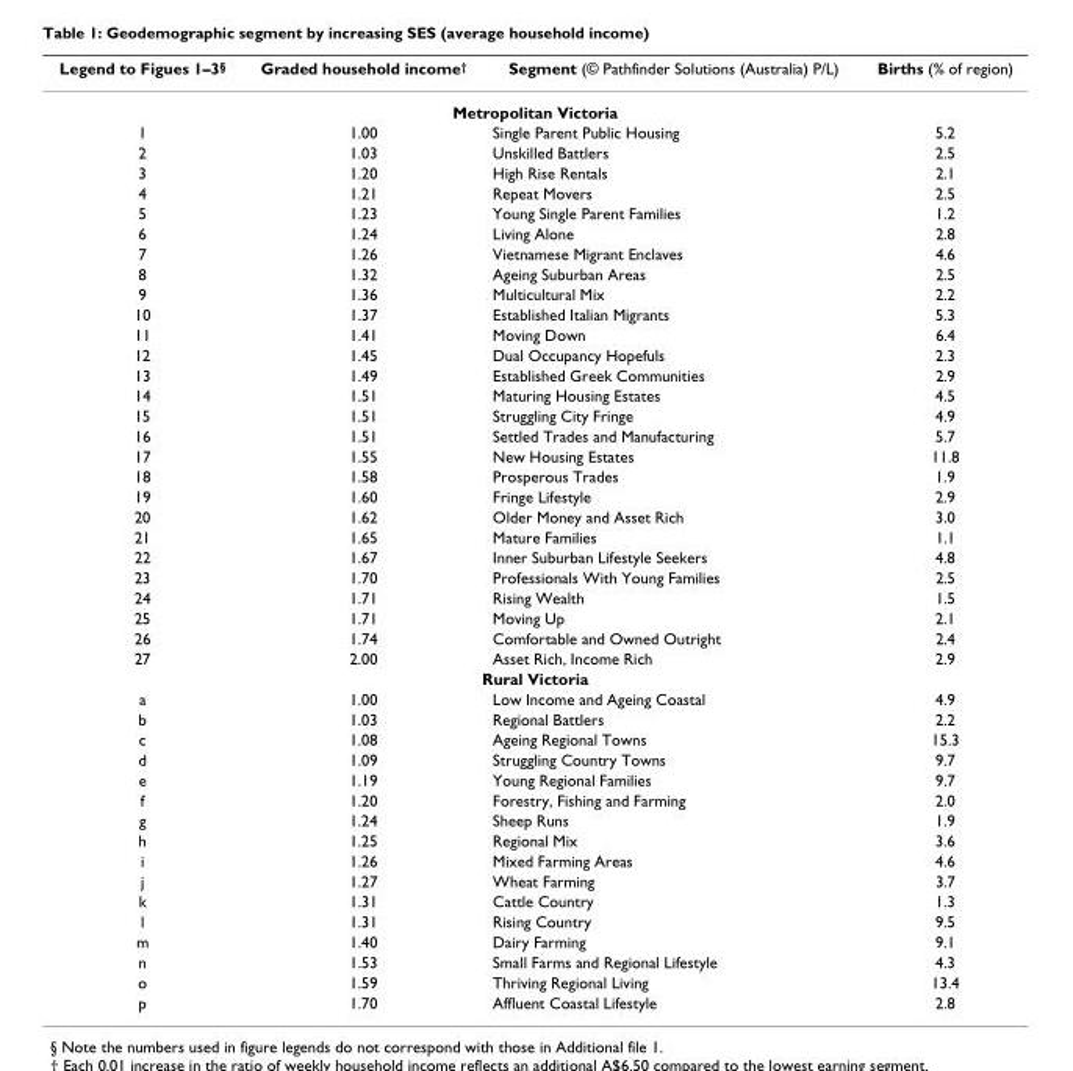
<table><thead><tr><td>Legend to Figues 1–3<sup>§</sup></td><td>Graded household income<sup>†</sup></td><td>Segment (© Pathfinder Solutions (Australia) P/L)</td><td>Births (% of region)</td></tr></thead><tbody><tr><td colspan="4">Metropolitan Victoria</td></tr><tr><td>1</td><td>1.00</td><td>Single Parent Public Housing</td><td>5.2</td></tr><tr><td>2</td><td>1.03</td><td>Unskilled Battlers</td><td>2.5</td></tr><tr><td>3</td><td>1.20</td><td>High Rise Rentals</td><td>2.1</td></tr><tr><td>4</td><td>1.21</td><td>Repeat Movers</td><td>2.5</td></tr><tr><td>5</td><td>1.23</td><td>Young Single Parent Families</td><td>1.2</td></tr><tr><td>6</td><td>1.24</td><td>Living Alone</td><td>2.8</td></tr><tr><td>7</td><td>1.26</td><td>Vietnamese Migrant Enclaves</td><td>4.6</td></tr><tr><td>8</td><td>1.32</td><td>Ageing Suburban Areas</td><td>2.5</td></tr><tr><td>9</td><td>1.36</td><td>Multicultural Mix</td><td>2.2</td></tr><tr><td>10</td><td>1.37</td><td>Established Italian Migrants</td><td>5.3</td></tr><tr><td>11</td><td>1.41</td><td>Moving Down</td><td>6.4</td></tr><tr><td>12</td><td>1.45</td><td>Dual Occupancy Hopefuls</td><td>2.3</td></tr><tr><td>13</td><td>1.49</td><td>Established Greek Communities</td><td>2.9</td></tr><tr><td>14</td><td>1.51</td><td>Maturing Housing Estates</td><td>4.5</td></tr><tr><td>15</td><td>1.51</td><td>Struggling City Fringe</td><td>4.9</td></tr><tr><td>16</td><td>1.51</td><td>Settled Trades and Manufacturing</td><td>5.7</td></tr><tr><td>17</td><td>1.55</td><td>New Housing Estates</td><td>11.8</td></tr><tr><td>18</td><td>1.58</td><td>Prosperous Trades</td><td>1.9</td></tr><tr><td>19</td><td>1.60</td><td>Fringe Lifestyle</td><td>2.9</td></tr><tr><td>20</td><td>1.62</td><td>Older Money and Asset Rich</td><td>3.0</td></tr><tr><td>21</td><td>1.65</td><td>Mature Families</td><td>1.1</td></tr><tr><td>22</td><td>1.67</td><td>Inner Suburban Lifestyle Seekers</td><td>4.8</td></tr><tr><td>23</td><td>1.70</td><td>Professionals With Young Families</td><td>2.5</td></tr><tr><td>24</td><td>1.71</td><td>Rising Wealth</td><td>1.5</td></tr><tr><td>25</td><td>1.71</td><td>Moving Up</td><td>2.1</td></tr><tr><td>26</td><td>1.74</td><td>Comfortable and Owned Outright</td><td>2.4</td></tr><tr><td>27</td><td>2.00</td><td>Asset Rich, Income Rich</td><td>2.9</td></tr><tr><td colspan="4">Rural Victoria</td></tr><tr><td>a</td><td>1.00</td><td>Low Income and Ageing Coastal</td><td>4.9</td></tr><tr><td>b</td><td>1.03</td><td>Regional Battlers</td><td>2.2</td></tr><tr><td>c</td><td>1.08</td><td>Ageing Regional Towns</td><td>15.3</td></tr><tr><td>d</td><td>1.09</td><td>Struggling Country Towns</td><td>9.7</td></tr><tr><td>e</td><td>1.19</td><td>Young Regional Families</td><td>9.7</td></tr><tr><td>f</td><td>1.20</td><td>Forestry, Fishing and Farming</td><td>2.0</td></tr><tr><td>g</td><td>1.24</td><td>Sheep Runs</td><td>1.9</td></tr><tr><td>h</td><td>1.25</td><td>Regional Mix</td><td>3.6</td></tr><tr><td>i</td><td>1.26</td><td>Mixed Farming Areas</td><td>4.6</td></tr><tr><td>j</td><td>1.27</td><td>Wheat Farming</td><td>3.7</td></tr><tr><td>k</td><td>1.31</td><td>Cattle Country</td><td>1.3</td></tr><tr><td>l</td><td>1.31</td><td>Rising Country</td><td>9.5</td></tr><tr><td>m</td><td>1.40</td><td>Dairy Farming</td><td>9.1</td></tr><tr><td>n</td><td>1.53</td><td>Small Farms and Regional Lifestyle</td><td>4.3</td></tr><tr><td>o</td><td>1.59</td><td>Thriving Regional Living</td><td>13.4</td></tr><tr><td>p</td><td>1.70</td><td>Affluent Coastal Lifestyle</td><td>2.8</td></tr></tbody></table>